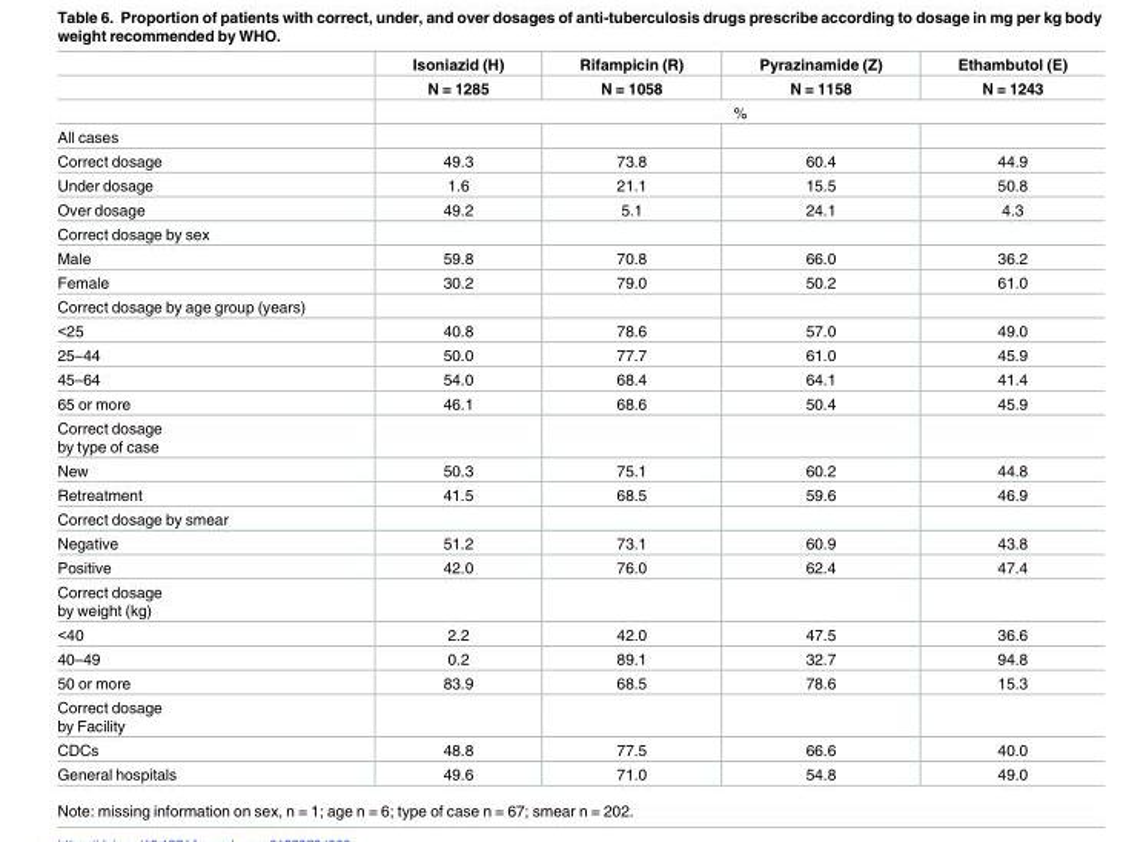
<table><thead><tr><td rowspan="2"></td><td rowspan="2">Isoniazid (H) N = 1285</td><td rowspan="2">Rifampicin (R) N = 1058</td><td rowspan="2">Pyrazinamide (Z) N = 1158</td><td rowspan="2">Ethambutol (E) N = 1243</td></tr><tr></tr></thead><tbody><tr><td></td><td colspan="4">%</td></tr><tr><td colspan="5">All cases</td></tr><tr><td>Correct dosage</td><td>49.3</td><td>73.8</td><td>60.4</td><td>44.9</td></tr><tr><td>Under dosage</td><td>1.6</td><td>21.1</td><td>15.5</td><td>50.8</td></tr><tr><td>Over dosage</td><td>49.2</td><td>5.1</td><td>24.1</td><td>4.3</td></tr><tr><td colspan="5">Correct dosage by sex</td></tr><tr><td>Male</td><td>59.8</td><td>70.8</td><td>66.0</td><td>36.2</td></tr><tr><td>Female</td><td>30.2</td><td>79.0</td><td>50.2</td><td>61.0</td></tr><tr><td colspan="5">Correct dosage by age group (years)</td></tr><tr><td>&lt;25</td><td>40.8</td><td>78.6</td><td>57.0</td><td>49.0</td></tr><tr><td>25–44</td><td>50.0</td><td>77.7</td><td>61.0</td><td>45.9</td></tr><tr><td>45–64</td><td>54.0</td><td>68.4</td><td>64.1</td><td>41.4</td></tr><tr><td>65 or more</td><td>46.1</td><td>68.6</td><td>50.4</td><td>45.9</td></tr><tr><td colspan="5">Correct dosage by type of case</td></tr><tr><td>New</td><td>50.3</td><td>75.1</td><td>60.2</td><td>44.8</td></tr><tr><td>Retreatment</td><td>41.5</td><td>68.5</td><td>59.6</td><td>46.9</td></tr><tr><td colspan="5">Correct dosage by smear</td></tr><tr><td>Negative</td><td>51.2</td><td>73.1</td><td>60.9</td><td>43.8</td></tr><tr><td>Positive</td><td>42.0</td><td>76.0</td><td>62.4</td><td>47.4</td></tr><tr><td colspan="5">Correct dosage by weight (kg)</td></tr><tr><td>&lt;40</td><td>2.2</td><td>42.0</td><td>47.5</td><td>36.6</td></tr><tr><td>40–49</td><td>0.2</td><td>89.1</td><td>32.7</td><td>94.8</td></tr><tr><td>50 or more</td><td>83.9</td><td>68.5</td><td>78.6</td><td>15.3</td></tr><tr><td colspan="5">Correct dosage by Facility</td></tr><tr><td>CDCs</td><td>48.8</td><td>77.5</td><td>66.6</td><td>40.0</td></tr><tr><td>General hospitals</td><td>49.6</td><td>71.0</td><td>54.8</td><td>49.0</td></tr></tbody></table>